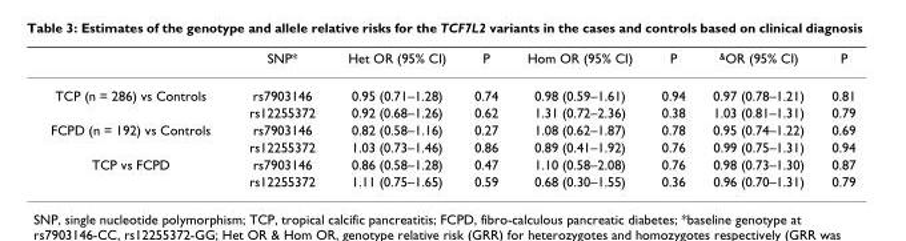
<table><thead><tr><td></td><td>SNP*</td><td>Het OR (95% CI)</td><td>P</td><td>Hom OR (95% CI)</td><td>P</td><td><sup>&amp;</sup>OR (95% CI)</td><td>P</td></tr></thead><tbody><tr><td rowspan="2">TCP (n = 286) vs Controls</td><td>rs7903146</td><td>0.95 (0.71–1.28)</td><td>0.74</td><td>0.98 (0.59–1.61)</td><td>0.94</td><td>0.97 (0.78–1.21)</td><td>0.81</td></tr><tr><td>rs12255372</td><td>0.92 (0.68–1.26)</td><td>0.62</td><td>1.31 (0.72–2.36)</td><td>0.38</td><td>1.03 (0.81–1.31)</td><td>0.79</td></tr><tr><td rowspan="2">FCPD (n = 192) vs Controls</td><td>rs7903146</td><td>0.82 (0.58–1.16)</td><td>0.27</td><td>1.08 (0.62–1.87)</td><td>0.78</td><td>0.95 (0.74–1.22)</td><td>0.69</td></tr><tr><td>rs12255372</td><td>1.03 (0.73–1.46)</td><td>0.86</td><td>0.89 (0.41–1.92)</td><td>0.76</td><td>0.99 (0.75–1.31)</td><td>0.94</td></tr><tr><td rowspan="2">TCP vs FCPD</td><td>rs7903146</td><td>0.86 (0.58–1.28)</td><td>0.47</td><td>1.10 (0.58–2.08)</td><td>0.76</td><td>0.98 (0.73–1.30)</td><td>0.87</td></tr><tr><td>rs12255372</td><td>1.11 (0.75–1.65)</td><td>0.59</td><td>0.68 (0.30–1.55)</td><td>0.36</td><td>0.96 (0.70–1.31)</td><td>0.79</td></tr></tbody></table>